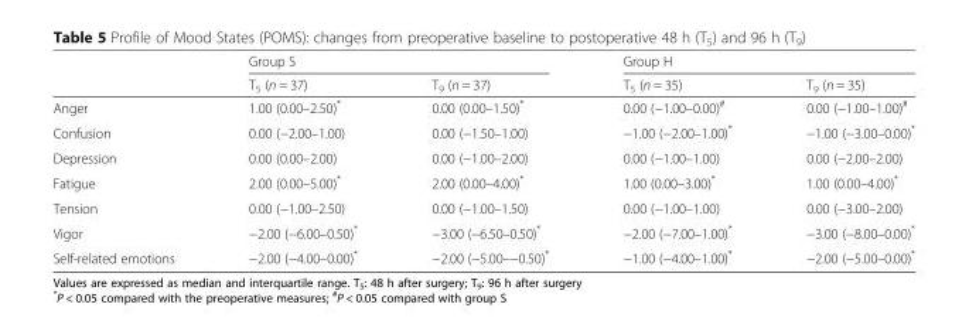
<table><thead><tr><td rowspan="2"></td><td colspan="2">Group S</td><td colspan="2">Group H</td></tr><tr><td>T<sub>5</sub> (n = 37)</td><td>T<sub>9</sub> (n = 37)</td><td>T<sub>5</sub> (n = 35)</td><td>T<sub>9</sub> (n = 35)</td></tr></thead><tbody><tr><td>Anger</td><td>1.00 (0.00–2.50)*</td><td>0.00 (0.00–1.50)*</td><td>0.00 (−1.00–0.00)<sup>#</sup></td><td>0.00 (−1.00–1.00)<sup>#</sup></td></tr><tr><td>Confusion</td><td>0.00 (−2.00–1.00)</td><td>0.00 (−1.50–1.00)</td><td>−1.00 (−2.00–1.00)*</td><td>−1.00 (−3.00–0.00)*</td></tr><tr><td>Depression</td><td>0.00 (0.00–2.00)</td><td>0.00 (−1.00–2.00)</td><td>0.00 (−1.00–1.00)</td><td>0.00 (−2.00–2.00)</td></tr><tr><td>Fatigue</td><td>2.00 (0.00–5.00)*</td><td>2.00 (0.00–4.00)*</td><td>1.00 (0.00–3.00)*</td><td>1.00 (0.00–4.00)*</td></tr><tr><td>Tension</td><td>0.00 (−1.00–2.50)</td><td>0.00 (−1.00–1.50)</td><td>0.00 (−1.00–1.00)</td><td>0.00 (−3.00–2.00)</td></tr><tr><td>Vigor</td><td>−2.00 (−6.00–0.50)*</td><td>−3.00 (−6.50–0.50)*</td><td>−2.00 (−7.00–1.00)*</td><td>−3.00 (−8.00–0.00)*</td></tr><tr><td>Self-related emotions</td><td>−2.00 (−4.00–0.00)*</td><td>−2.00 (−5.00–−0.50)*</td><td>−1.00 (−4.00–1.00)*</td><td>−2.00 (−5.00–0.00)*</td></tr></tbody></table>